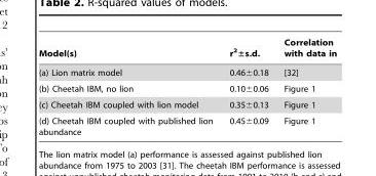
<table><thead><tr><td>Model(s)</td><td>r<sup>2</sup>±s.d.</td><td>Correlation with data in</td></tr></thead><tbody><tr><td>(a) Lion matrix model</td><td>0.46±0.18</td><td>[32]</td></tr><tr><td>(b) Cheetah IBM, no lion</td><td>0.10±0.06</td><td>Figure 1</td></tr><tr><td>(c) Cheetah IBM coupled with lion model</td><td>0.35±0.13</td><td>Figure 1</td></tr><tr><td>(d) Cheetah IBM coupled with published lion abundance</td><td>0.45±0.09</td><td>Figure 1</td></tr></tbody></table>